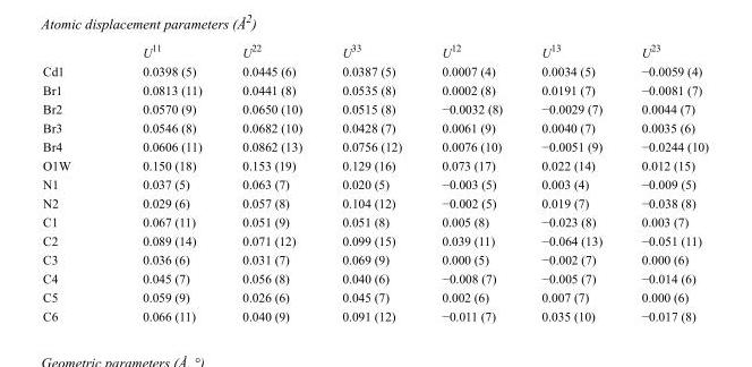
<table><thead><tr><td></td><td>U<sup>11</sup></td><td>U<sup>22</sup></td><td>U<sup>33</sup></td><td>U<sup>12</sup></td><td>U<sup>13</sup></td><td>U<sup>23</sup></td></tr></thead><tbody><tr><td>Cd1</td><td>0.0398 (5)</td><td>0.0445 (6)</td><td>0.0387 (5)</td><td>0.0007 (4)</td><td>0.0034 (5)</td><td>−0.0059 (4)</td></tr><tr><td>Br1</td><td>0.0813 (11)</td><td>0.0441 (8)</td><td>0.0535 (8)</td><td>0.0002 (8)</td><td>0.0191 (7)</td><td>−0.0081 (7)</td></tr><tr><td>Br2</td><td>0.0570 (9)</td><td>0.0650 (10)</td><td>0.0515 (8)</td><td>−0.0032 (8)</td><td>−0.0029 (7)</td><td>0.0044 (7)</td></tr><tr><td>Br3</td><td>0.0546 (8)</td><td>0.0682 (10)</td><td>0.0428 (7)</td><td>0.0061 (9)</td><td>0.0040 (7)</td><td>0.0035 (6)</td></tr><tr><td>Br4</td><td>0.0606 (11)</td><td>0.0862 (13)</td><td>0.0756 (12)</td><td>0.0076 (10)</td><td>−0.0051 (9)</td><td>−0.0244 (10)</td></tr><tr><td>O1W</td><td>0.150 (18)</td><td>0.153 (19)</td><td>0.129 (16)</td><td>0.073 (17)</td><td>0.022 (14)</td><td>0.012 (15)</td></tr><tr><td>N1</td><td>0.037 (5)</td><td>0.063 (7)</td><td>0.020 (5)</td><td>−0.003 (5)</td><td>0.003 (4)</td><td>−0.009 (5)</td></tr><tr><td>N2</td><td>0.029 (6)</td><td>0.057 (8)</td><td>0.104 (12)</td><td>−0.002 (5)</td><td>0.019 (7)</td><td>−0.038 (8)</td></tr><tr><td>C1</td><td>0.067 (11)</td><td>0.051 (9)</td><td>0.051 (8)</td><td>0.005 (8)</td><td>−0.023 (8)</td><td>0.003 (7)</td></tr><tr><td>C2</td><td>0.089 (14)</td><td>0.071 (12)</td><td>0.099 (15)</td><td>0.039 (11)</td><td>−0.064 (13)</td><td>−0.051 (11)</td></tr><tr><td>C3</td><td>0.036 (6)</td><td>0.031 (7)</td><td>0.069 (9)</td><td>0.000 (5)</td><td>−0.002 (7)</td><td>0.000 (6)</td></tr><tr><td>C4</td><td>0.045 (7)</td><td>0.056 (8)</td><td>0.040 (6)</td><td>−0.008 (7)</td><td>−0.005 (7)</td><td>−0.014 (6)</td></tr><tr><td>C5</td><td>0.059 (9)</td><td>0.026 (6)</td><td>0.045 (7)</td><td>0.002 (6)</td><td>0.007 (7)</td><td>0.000 (6)</td></tr><tr><td>C6</td><td>0.066 (11)</td><td>0.040 (9)</td><td>0.091 (12)</td><td>−0.011 (7)</td><td>0.035 (10)</td><td>−0.017 (8)</td></tr></tbody></table>